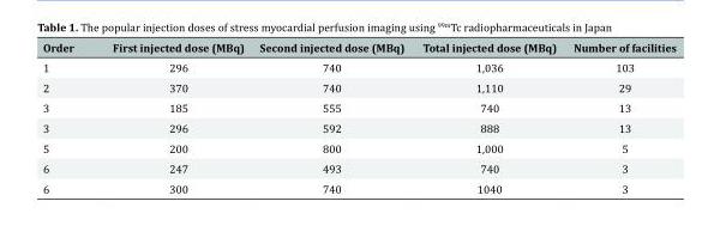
<table><thead><tr><td>Order</td><td>First injected dose (MBq)</td><td>Second injected dose (MBq)</td><td>Total injected dose (MBq)</td><td>Number of facilities</td></tr></thead><tbody><tr><td>1</td><td>296</td><td>740</td><td>1,036</td><td>103</td></tr><tr><td>2</td><td>370</td><td>740</td><td>1,110</td><td>29</td></tr><tr><td>3</td><td>185</td><td>555</td><td>740</td><td>13</td></tr><tr><td>3</td><td>296</td><td>592</td><td>888</td><td>13</td></tr><tr><td>5</td><td>200</td><td>800</td><td>1,000</td><td>5</td></tr><tr><td>6</td><td>247</td><td>493</td><td>740</td><td>3</td></tr><tr><td>6</td><td>300</td><td>740</td><td>1040</td><td>3</td></tr></tbody></table>